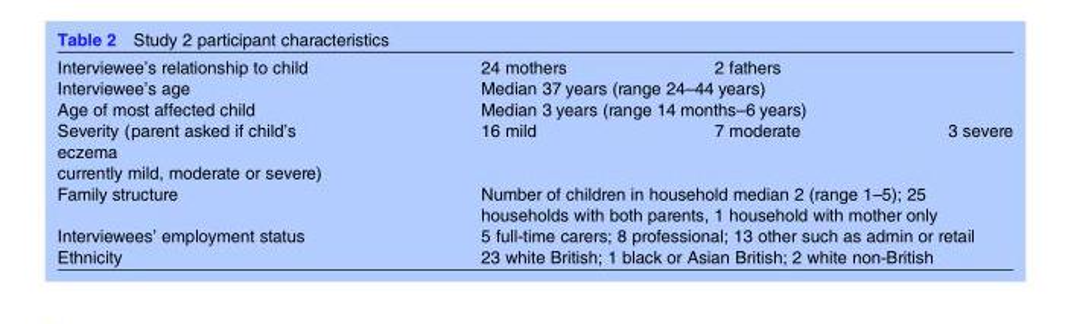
<table><tbody><tr><td>Interviewee’s relationship to child</td><td>24 mothers</td><td colspan="2">2 fathers</td></tr><tr><td>Interviewee’s age</td><td colspan="3">Median 37 years (range 24–44 years)</td></tr><tr><td>Age of most affected child</td><td colspan="3">Median 3 years (range 14 months–6 years)</td></tr><tr><td>Severity (parent asked if child’s eczema currently mild, moderate or severe)</td><td>16 mild</td><td>7 moderate</td><td>3 severe</td></tr><tr><td>Family structure</td><td colspan="3">Number of children in household median 2 (range 1–5); 25 households with both parents, 1 household with mother only</td></tr><tr><td>Interviewees’ employment status</td><td colspan="3">5 full-time carers; 8 professional; 13 other such as admin or retail</td></tr><tr><td>Ethnicity</td><td colspan="3">23 white British; 1 black or Asian British; 2 white non-British</td></tr></tbody></table>